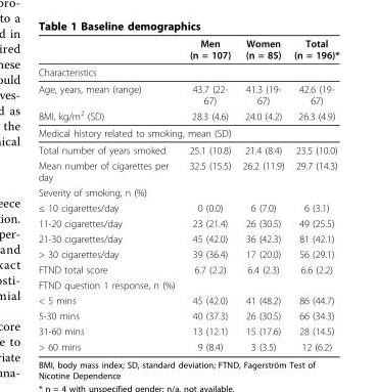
<table><thead><tr><td></td><td>Men (n = 107)</td><td>Women (n = 85)</td><td>Total (n = 196)*</td></tr></thead><tbody><tr><td colspan="4">Characteristics</td></tr><tr><td>Age, years, mean (range)</td><td>43.7 (22- 67)</td><td>41.3 (19- 67)</td><td>42.6 (19- 67)</td></tr><tr><td>BMI, kg/m<sup>2</sup> (SD)</td><td>28.3 (4.6)</td><td>24.0 (4.2)</td><td>26.3 (4.9)</td></tr><tr><td colspan="4">Medical history related to smoking, mean (SD)</td></tr><tr><td>Total number of years smoked</td><td>25.1 (10.8)</td><td>21.4 (8.4)</td><td>23.5 (10.0)</td></tr><tr><td>Mean number of cigarettes per day</td><td>32.5 (15.5)</td><td>26.2 (11.9)</td><td>29.7 (14.3)</td></tr><tr><td colspan="4">Severity of smoking, n (%)</td></tr><tr><td>≤ 10 cigarettes/day</td><td>0 (0.0)</td><td>6 (7.0)</td><td>6 (3.1)</td></tr><tr><td>11-20 cigarettes/day</td><td>23 (21.4)</td><td>26 (30.5)</td><td>49 (25.5)</td></tr><tr><td>21-30 cigarettes/day</td><td>45 (42.0)</td><td>36 (42.3)</td><td>81 (42.1)</td></tr><tr><td>&gt; 30 cigarettes/day</td><td>39 (36.4)</td><td>17 (20.0)</td><td>56 (29.1)</td></tr><tr><td>FTND total score</td><td>6.7 (2.2)</td><td>6.4 (2.3)</td><td>6.6 (2.2)</td></tr><tr><td colspan="4">FTND question 1 response, n (%)</td></tr><tr><td>&lt; 5 mins</td><td>45 (42.0)</td><td>41 (48.2)</td><td>86 (44.7)</td></tr><tr><td>5-30 mins</td><td>40 (37.3)</td><td>26 (30.5)</td><td>66 (34.3)</td></tr><tr><td>31-60 mins</td><td>13 (12.1)</td><td>15 (17.6)</td><td>28 (14.5)</td></tr><tr><td>&gt; 60 mins</td><td>9 (8.4)</td><td>3 (3.5)</td><td>12 (6.2)</td></tr></tbody></table>